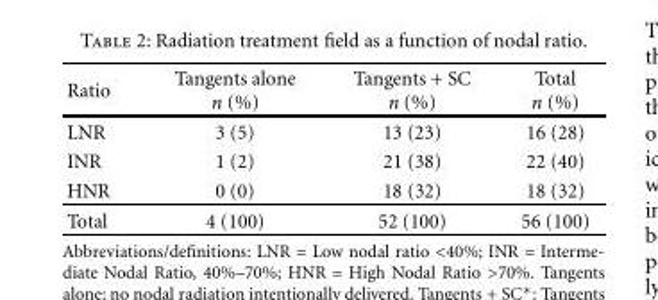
<table><thead><tr><td>Ratio</td><td>Tangents alone n (%)</td><td>Tangents + SC n (%)</td><td>Total n (%)</td></tr></thead><tbody><tr><td>LNR</td><td>3 (5)</td><td>13 (23)</td><td>16 (28)</td></tr><tr><td>INR</td><td>1 (2)</td><td>21 (38)</td><td>22 (40)</td></tr><tr><td>HNR</td><td>0 (0)</td><td>18 (32)</td><td>18 (32)</td></tr><tr><td>Total</td><td>4 (100)</td><td>52 (100)</td><td>56 (100)</td></tr></tbody></table>